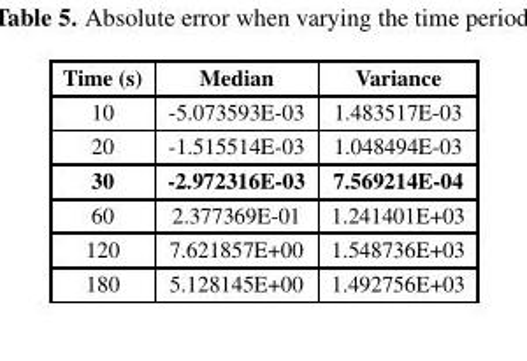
<table><thead><tr><td>Time (s)</td><td>Median</td><td>Variance</td></tr></thead><tbody><tr><td>10</td><td>-5.073593E-03</td><td>1.483517E-03</td></tr><tr><td>20</td><td>-1.515514E-03</td><td>1.048494E-03</td></tr><tr><td>30</td><td>-2.972316E-03</td><td>7.569214E-04</td></tr><tr><td>60</td><td>2.377369E-01</td><td>1.241401E+03</td></tr><tr><td>120</td><td>7.621857E+00</td><td>1.548736E+03</td></tr><tr><td>180</td><td>5.128145E+00</td><td>1.492756E+03</td></tr></tbody></table>